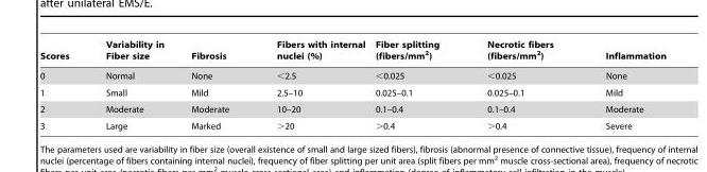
<table><thead><tr><td>Scores</td><td>Variability in Fiber size</td><td>Fibrosis</td><td>Fibers with internal nuclei (%)</td><td>Fiber splitting (fibers/mm<sup>2</sup>)</td><td>Necrotic fibers (fibers/mm<sup>2</sup>)</td><td>Inflammation</td></tr></thead><tbody><tr><td>0</td><td>Normal</td><td>None</td><td>&lt;2.5</td><td>&lt;0.025</td><td>&lt;0.025</td><td>None</td></tr><tr><td>1</td><td>Small</td><td>Mild</td><td>2.5–10</td><td>0.025–0.1</td><td>0.025–0.1</td><td>Mild</td></tr><tr><td>2</td><td>Moderate</td><td>Moderate</td><td>10–20</td><td>0.1–0.4</td><td>0.1–0.4</td><td>Moderate</td></tr><tr><td>3</td><td>Large</td><td>Marked</td><td>&gt;20</td><td>&gt;0.4</td><td>&gt;0.4</td><td>Severe</td></tr></tbody></table>